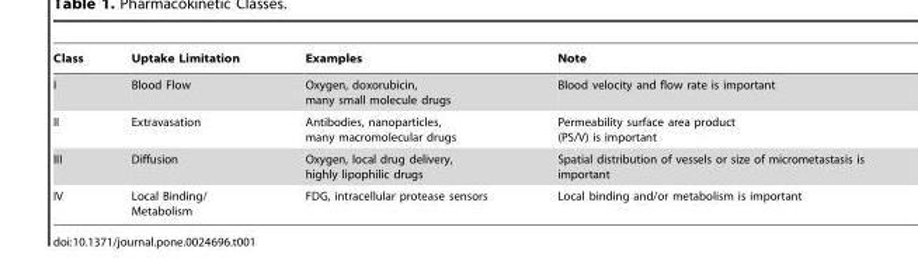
<table><thead><tr><td>Class</td><td>Uptake Limitation</td><td>Examples</td><td>Note</td></tr></thead><tbody><tr><td>I</td><td>Blood Flow</td><td>Oxygen, doxorubicin, many small molecule drugs</td><td>Blood velocity and flow rate is important</td></tr><tr><td>II</td><td>Extravasation</td><td>Antibodies, nanoparticles, many macromolecular drugs</td><td>Permeability surface area product (PS/V) is important</td></tr><tr><td>III</td><td>Diffusion</td><td>Oxygen, local drug delivery, highly lipophilic drugs</td><td>Spatial distribution of vessels or size of micrometastasis is important</td></tr><tr><td>IV</td><td>Local Binding/ Metabolism</td><td>FDG, intracellular protease sensors</td><td>Local binding and/or metabolism is important</td></tr></tbody></table>